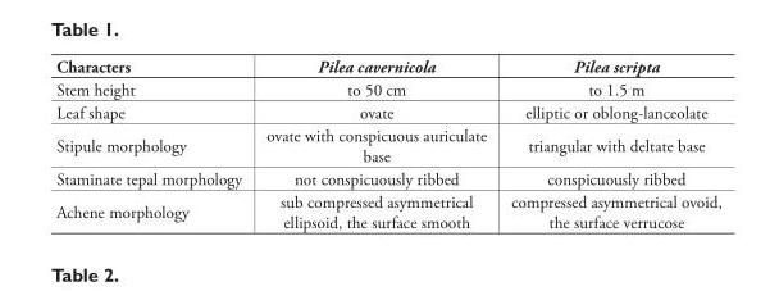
<table><thead><tr><td>Characters</td><td>Pilea cavernicola</td><td>Pilea scripta</td></tr></thead><tbody><tr><td>Stem height</td><td>to 50 cm</td><td>to 1.5 m</td></tr><tr><td>Leaf shape</td><td>ovate</td><td>elliptic or oblong-lanceolate</td></tr><tr><td>Stipule morphology</td><td>ovate with conspicuous auriculate base</td><td>triangular with deltate base</td></tr><tr><td>Staminate tepal morphology</td><td>not conspicuously ribbed</td><td>conspicuously ribbed</td></tr><tr><td>Achene morphology</td><td>sub compressed asymmetrical ellipsoid, the surface smooth</td><td>compressed asymmetrical ovoid, the surface verrucose</td></tr></tbody></table>